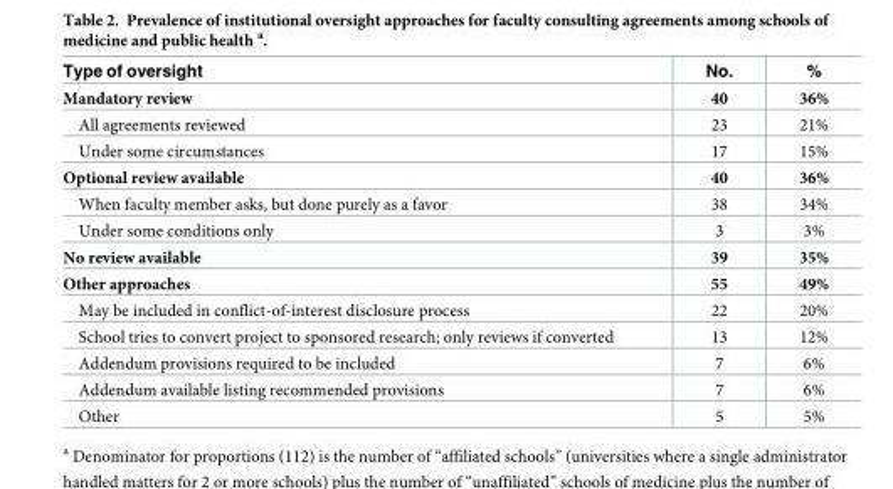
<table><thead><tr><td>Type of oversight</td><td>No.</td><td>%</td></tr></thead><tbody><tr><td>Mandatory review</td><td>40</td><td>36%</td></tr><tr><td>All agreements reviewed</td><td>23</td><td>21%</td></tr><tr><td>Under some circumstances</td><td>17</td><td>15%</td></tr><tr><td>Optional review available</td><td>40</td><td>36%</td></tr><tr><td>When faculty member asks, but done purely as a favor</td><td>38</td><td>34%</td></tr><tr><td>Under some conditions only</td><td>3</td><td>3%</td></tr><tr><td>No review available</td><td>39</td><td>35%</td></tr><tr><td>Other approaches</td><td>55</td><td>49%</td></tr><tr><td>May be included in conflict-of-interest disclosure process</td><td>22</td><td>20%</td></tr><tr><td>School tries to convert project to sponsored research; only reviews if converted</td><td>13</td><td>12%</td></tr><tr><td>Addendum provisions required to be included</td><td>7</td><td>6%</td></tr><tr><td>Addendum available listing recommended provisions</td><td>7</td><td>6%</td></tr><tr><td>Other</td><td>5</td><td>5%</td></tr></tbody></table>